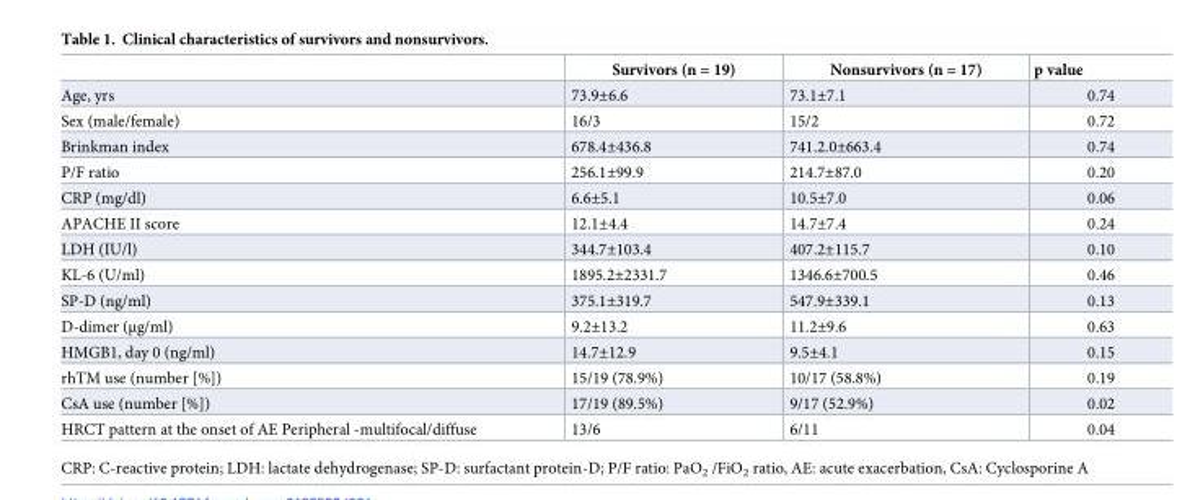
<table><thead><tr><td></td><td>Survivors (n = 19)</td><td>Nonsurvivors (n = 17)</td><td>p value</td></tr></thead><tbody><tr><td>Age, yrs</td><td>73.9±6.6</td><td>73.1±7.1</td><td>0.74</td></tr><tr><td>Sex (male/female)</td><td>16/3</td><td>15/2</td><td>0.72</td></tr><tr><td>Brinkman index</td><td>678.4±436.8</td><td>741.2.0±663.4</td><td>0.74</td></tr><tr><td>P/F ratio</td><td>256.1±99.9</td><td>214.7±87.0</td><td>0.20</td></tr><tr><td>CRP (mg/dl)</td><td>6.6±5.1</td><td>10.5±7.0</td><td>0.06</td></tr><tr><td>APACHE II score</td><td>12.1±4.4</td><td>14.7±7.4</td><td>0.24</td></tr><tr><td>LDH (IU/l)</td><td>344.7±103.4</td><td>407.2±115.7</td><td>0.10</td></tr><tr><td>KL-6 (U/ml)</td><td>1895.2±2331.7</td><td>1346.6±700.5</td><td>0.46</td></tr><tr><td>SP-D (ng/ml)</td><td>375.1±319.7</td><td>547.9±339.1</td><td>0.13</td></tr><tr><td>D-dimer (μg/ml)</td><td>9.2±13.2</td><td>11.2±9.6</td><td>0.63</td></tr><tr><td>HMGB1, day 0 (ng/ml)</td><td>14.7±12.9</td><td>9.5±4.1</td><td>0.15</td></tr><tr><td>rhTM use (number [%])</td><td>15/19 (78.9%)</td><td>10/17 (58.8%)</td><td>0.19</td></tr><tr><td>CsA use (number [%])</td><td>17/19 (89.5%)</td><td>9/17 (52.9%)</td><td>0.02</td></tr><tr><td>HRCT pattern at the onset of AE Peripheral -multifocal/diffuse</td><td>13/6</td><td>6/11</td><td>0.04</td></tr></tbody></table>